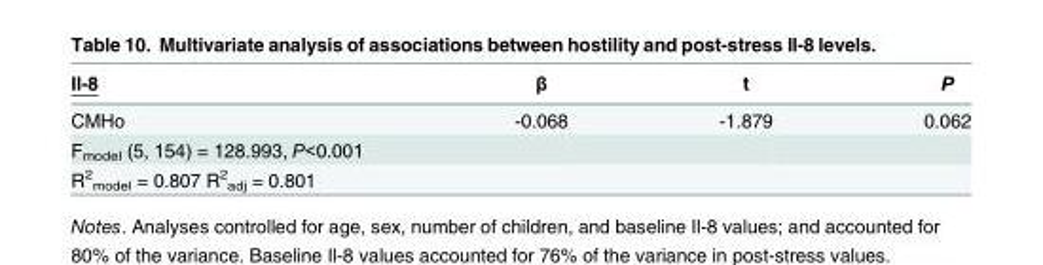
<table><thead><tr><td>Il-8</td><td>β</td><td>t</td><td>P</td></tr></thead><tbody><tr><td>CMHo</td><td>-0.068</td><td>-1.879</td><td>0.062</td></tr><tr><td colspan="4">F<sub>model</sub> (5, 154) = 128.993, P&lt;0.001</td></tr><tr><td>R<sup>2</sup> <sub>model</sub> = 0.807 R<sup>2</sup> <sub>adj</sub> = 0.801</td><td></td><td></td><td></td></tr></tbody></table>